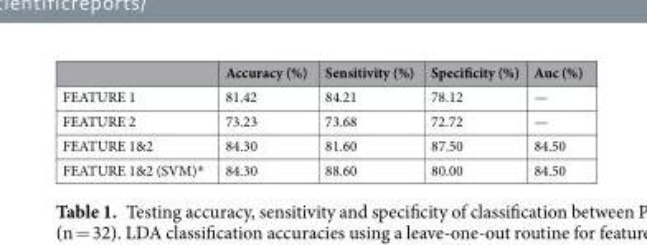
<table><thead><tr><td></td><td>Accuracy (%)</td><td>Sensitivity (%)</td><td>Specificity (%)</td><td>Auc (%)</td></tr></thead><tbody><tr><td>FEATURE 1</td><td>81.42</td><td>84.21</td><td>78.12</td><td>—</td></tr><tr><td>FEATURE 2</td><td>73.23</td><td>73.68</td><td>72.72</td><td>—</td></tr><tr><td>FEATURE 1&amp;2</td><td>84.30</td><td>81.60</td><td>87.50</td><td>84.50</td></tr><tr><td>FEATURE 1&amp;2 (SVM)*</td><td>84.30</td><td>88.60</td><td>80.00</td><td>84.50</td></tr></tbody></table>